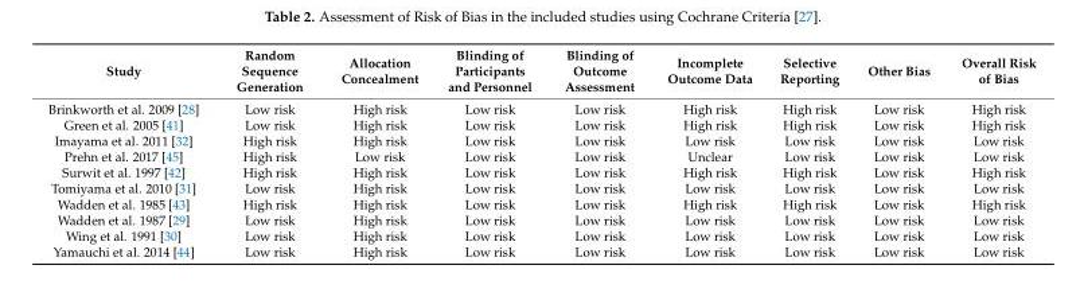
<table><thead><tr><td>Study</td><td>Random Sequence Generation</td><td>Allocation Concealment</td><td>Blinding of Participants and Personnel</td><td>Blinding of Outcome Assessment</td><td>Incomplete Outcome Data</td><td>Selective Reporting</td><td>Other Bias</td><td>Overall Risk of Bias</td></tr></thead><tbody><tr><td>Brinkworth et al. 2009 [28]</td><td>Low risk</td><td>High risk</td><td>Low risk</td><td>Low risk</td><td>High risk</td><td>High risk</td><td>Low risk</td><td>High risk</td></tr><tr><td>Green et al. 2005 [41]</td><td>Low risk</td><td>High risk</td><td>Low risk</td><td>Low risk</td><td>High risk</td><td>High risk</td><td>Low risk</td><td>High risk</td></tr><tr><td>Imayama et al. 2011 [32]</td><td>High risk</td><td>High risk</td><td>Low risk</td><td>Low risk</td><td>Low risk</td><td>Low risk</td><td>Low risk</td><td>Low risk</td></tr><tr><td>Prehn et al. 2017 [45]</td><td>High risk</td><td>Low risk</td><td>Low risk</td><td>Low risk</td><td>Unclear</td><td>Low risk</td><td>Low risk</td><td>Low risk</td></tr><tr><td>Surwit et al. 1997 [42]</td><td>High risk</td><td>High risk</td><td>Low risk</td><td>Low risk</td><td>High risk</td><td>High risk</td><td>Low risk</td><td>High risk</td></tr><tr><td>Tomiyama et al. 2010 [31]</td><td>Low risk</td><td>High risk</td><td>Low risk</td><td>Low risk</td><td>Low risk</td><td>Low risk</td><td>Low risk</td><td>Low risk</td></tr><tr><td>Wadden et al. 1985 [43]</td><td>High risk</td><td>High risk</td><td>Low risk</td><td>Low risk</td><td>High risk</td><td>High risk</td><td>Low risk</td><td>High risk</td></tr><tr><td>Wadden et al. 1987 [29]</td><td>Low risk</td><td>High risk</td><td>Low risk</td><td>Low risk</td><td>Low risk</td><td>Low risk</td><td>Low risk</td><td>Low risk</td></tr><tr><td>Wing et al. 1991 [30]</td><td>Low risk</td><td>High risk</td><td>Low risk</td><td>Low risk</td><td>Low risk</td><td>Low risk</td><td>Low risk</td><td>Low risk</td></tr><tr><td>Yamauchi et al. 2014 [44]</td><td>Low risk</td><td>High risk</td><td>Low risk</td><td>Low risk</td><td>Low risk</td><td>Low risk</td><td>Low risk</td><td>Low risk</td></tr></tbody></table>